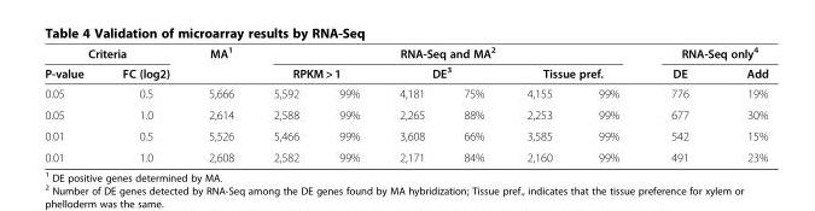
<table><thead><tr><td colspan="2">Criteria</td><td rowspan="3">MA<sup>1</sup> 5,666</td><td colspan="6">RNA-Seq and MA<sup>2</sup></td><td colspan="2">RNA-Seq only<sup>4</sup></td></tr><tr><td rowspan="2">P-value 0.05</td><td rowspan="2">FC (log2) 0.5</td><td colspan="2">RPKM &gt; 1</td><td colspan="2">DE<sup>3</sup></td><td colspan="2">Tissue pref.</td><td rowspan="2">DE 776</td><td rowspan="2">Add 19%</td></tr><tr><td>5,592</td><td>99%</td><td>4,181</td><td>75%</td><td>4,155</td><td>99%</td></tr></thead><tbody><tr><td>0.05</td><td>1.0</td><td>2,614</td><td>2,588</td><td>99%</td><td>2,265</td><td>88%</td><td>2,253</td><td>99%</td><td>677</td><td>30%</td></tr><tr><td>0.01</td><td>0.5</td><td>5,526</td><td>5,466</td><td>99%</td><td>3,608</td><td>66%</td><td>3,585</td><td>99%</td><td>542</td><td>15%</td></tr><tr><td>0.01</td><td>1.0</td><td>2,608</td><td>2,582</td><td>99%</td><td>2,171</td><td>84%</td><td>2,160</td><td>99%</td><td>491</td><td>23%</td></tr></tbody></table>